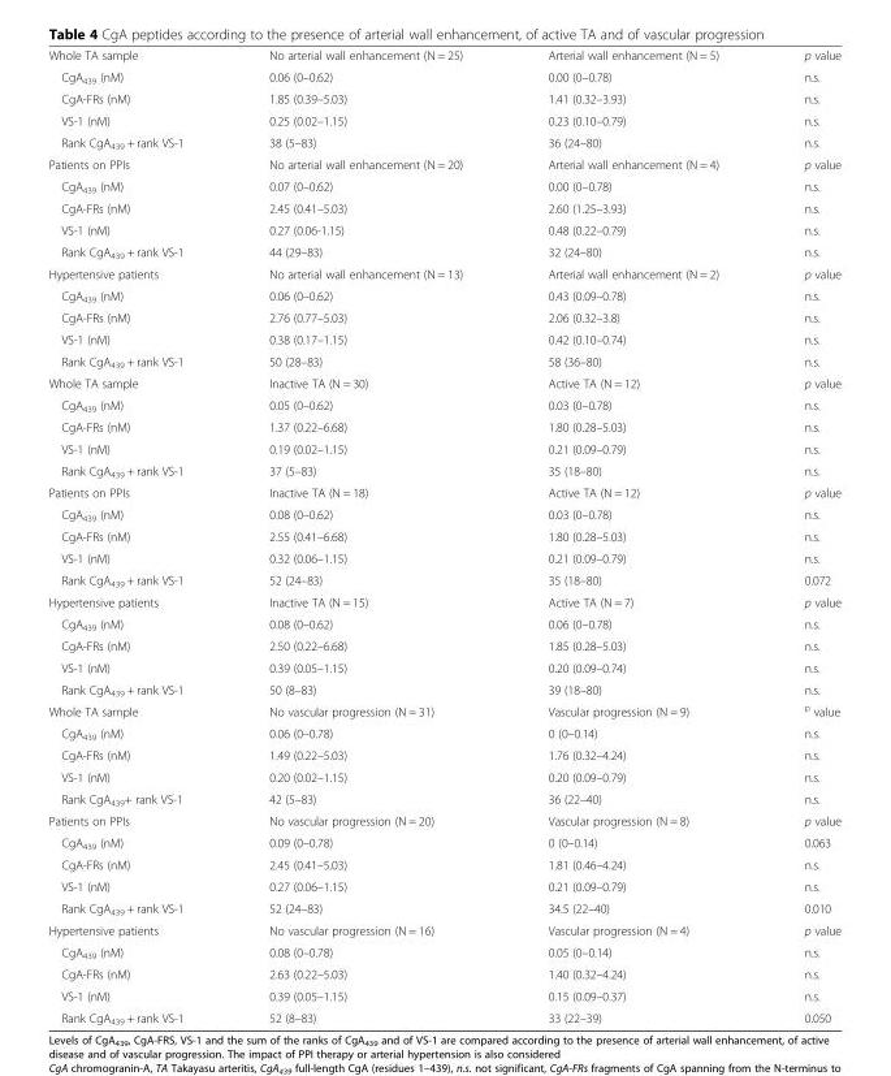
<table><tbody><tr><td>Whole TA sample</td><td>No arterial wall enhancement (N = 25)</td><td>Arterial wall enhancement (N = 5)</td><td>p value</td></tr><tr><td>CgA<sub>439</sub> (nM)</td><td>0.06 (0–0.62)</td><td>0.00 (0–0.78)</td><td>n.s.</td></tr><tr><td>CgA-FRs (nM)</td><td>1.85 (0.39–5.03)</td><td>1.41 (0.32–3.93)</td><td>n.s.</td></tr><tr><td>VS-1 (nM)</td><td>0.25 (0.02–1.15)</td><td>0.23 (0.10–0.79)</td><td>n.s.</td></tr><tr><td>Rank CgA<sub>439</sub> + rank VS-1</td><td>38 (5–83)</td><td>36 (24–80)</td><td>n.s.</td></tr><tr><td>Patients on PPIs</td><td>No arterial wall enhancement (N = 20)</td><td>Arterial wall enhancement (N = 4)</td><td>p value</td></tr><tr><td>CgA<sub>439</sub> (nM)</td><td>0.07 (0–0.62)</td><td>0.00 (0–0.78)</td><td>n.s.</td></tr><tr><td>CgA-FRs (nM)</td><td>2.45 (0.41–5.03)</td><td>2.60 (1.25–3.93)</td><td>n.s.</td></tr><tr><td>VS-1 (nM)</td><td>0.27 (0.06-1.15)</td><td>0.48 (0.22–0.79)</td><td>n.s.</td></tr><tr><td>Rank CgA<sub>439</sub> + rank VS-1</td><td>44 (29–83)</td><td>32 (24–80)</td><td>n.s.</td></tr><tr><td>Hypertensive patients</td><td>No arterial wall enhancement (N = 13)</td><td>Arterial wall enhancement (N = 2)</td><td>p value</td></tr><tr><td>CgA<sub>439</sub> (nM)</td><td>0.06 (0–0.62)</td><td>0.43 (0.09–0.78)</td><td>n.s.</td></tr><tr><td>CgA-FRs (nM)</td><td>2.76 (0.77–5.03)</td><td>2.06 (0.32–3.8)</td><td>n.s.</td></tr><tr><td>VS-1 (nM)</td><td>0.38 (0.17–1.15)</td><td>0.42 (0.10–0.74)</td><td>n.s.</td></tr><tr><td>Rank CgA<sub>439</sub> + rank VS-1</td><td>50 (28–83)</td><td>58 (36–80)</td><td>n.s.</td></tr><tr><td>Whole TA sample</td><td>Inactive TA (N = 30)</td><td>Active TA (N = 12)</td><td>p value</td></tr><tr><td>CgA<sub>439</sub> (nM)</td><td>0.05 (0–0.62)</td><td>0.03 (0–0.78)</td><td>n.s.</td></tr><tr><td>CgA-FRs (nM)</td><td>1.37 (0.22–6.68)</td><td>1.80 (0.28–5.03)</td><td>n.s.</td></tr><tr><td>VS-1 (nM)</td><td>0.19 (0.02–1.15)</td><td>0.21 (0.09–0.79)</td><td>n.s.</td></tr><tr><td>Rank CgA<sub>439</sub> + rank VS-1</td><td>37 (5–83)</td><td>35 (18–80)</td><td>n.s.</td></tr><tr><td>Patients on PPIs</td><td>Inactive TA (N = 18)</td><td>Active TA (N = 12)</td><td>p value</td></tr><tr><td>CgA<sub>439</sub> (nM)</td><td>0.08 (0–0.62)</td><td>0.03 (0–0.78)</td><td>n.s.</td></tr><tr><td>CgA-FRs (nM)</td><td>2.55 (0.41–6.68)</td><td>1.80 (0.28–5.03)</td><td>n.s.</td></tr><tr><td>VS-1 (nM)</td><td>0.32 (0.06–1.15)</td><td>0.21 (0.09–0.79)</td><td>n.s.</td></tr><tr><td>Rank CgA<sub>439</sub> + rank VS-1</td><td>52 (24–83)</td><td>35 (18–80)</td><td>0.072</td></tr><tr><td>Hypertensive patients</td><td>Inactive TA (N = 15)</td><td>Active TA (N = 7)</td><td>p value</td></tr><tr><td>CgA<sub>439</sub> (nM)</td><td>0.08 (0–0.62)</td><td>0.06 (0–0.78)</td><td>n.s.</td></tr><tr><td>CgA-FRs (nM)</td><td>2.50 (0.22–6.68)</td><td>1.85 (0.28–5.03)</td><td>n.s.</td></tr><tr><td>VS-1 (nM)</td><td>0.39 (0.05–1.15)</td><td>0.20 (0.09–0.74)</td><td>n.s.</td></tr><tr><td>Rank CgA<sub>439</sub> + rank VS-1</td><td>50 (8–83)</td><td>39 (18–80)</td><td>n.s.</td></tr><tr><td>Whole TA sample</td><td>No vascular progression (N = 31)</td><td>Vascular progression (N = 9)</td><td><sup>p</sup> value</td></tr><tr><td>CgA<sub>439</sub> (nM)</td><td>0.06 (0–0.78)</td><td>0 (0–0.14)</td><td>n.s.</td></tr><tr><td>CgA-FRs (nM)</td><td>1.49 (0.22–5.03)</td><td>1.76 (0.32–4.24)</td><td>n.s.</td></tr><tr><td>VS-1 (nM)</td><td>0.20 (0.02–1.15)</td><td>0.20 (0.09–0.79)</td><td>n.s.</td></tr><tr><td>Rank CgA<sub>439</sub>+ rank VS-1</td><td>42 (5–83)</td><td>36 (22–40)</td><td>n.s.</td></tr><tr><td>Patients on PPIs</td><td>No vascular progression (N = 20)</td><td>Vascular progression (N = 8)</td><td>p value</td></tr><tr><td>CgA<sub>439</sub> (nM)</td><td>0.09 (0–0.78)</td><td>0 (0–0.14)</td><td>0.063</td></tr><tr><td>CgA-FRs (nM)</td><td>2.45 (0.41–5.03)</td><td>1.81 (0.46–4.24)</td><td>n.s.</td></tr><tr><td>VS-1 (nM)</td><td>0.27 (0.06–1.15)</td><td>0.21 (0.09–0.79)</td><td>n.s.</td></tr><tr><td>Rank CgA<sub>439</sub> + rank VS-1</td><td>52 (24–83)</td><td>34.5 (22–40)</td><td>0.010</td></tr><tr><td>Hypertensive patients</td><td>No vascular progression (N = 16)</td><td>Vascular progression (N = 4)</td><td>p value</td></tr><tr><td>CgA<sub>439</sub> (nM)</td><td>0.08 (0–0.78)</td><td>0.05 (0–0.14)</td><td>n.s.</td></tr><tr><td>CgA-FRs (nM)</td><td>2.63 (0.22–5.03)</td><td>1.40 (0.32–4.24)</td><td>n.s.</td></tr><tr><td>VS-1 (nM)</td><td>0.39 (0.05–1.15)</td><td>0.15 (0.09–0.37)</td><td>n.s.</td></tr><tr><td>Rank CgA<sub>439</sub> + rank VS-1</td><td>52 (8–83)</td><td>33 (22–39)</td><td>0.050</td></tr></tbody></table>